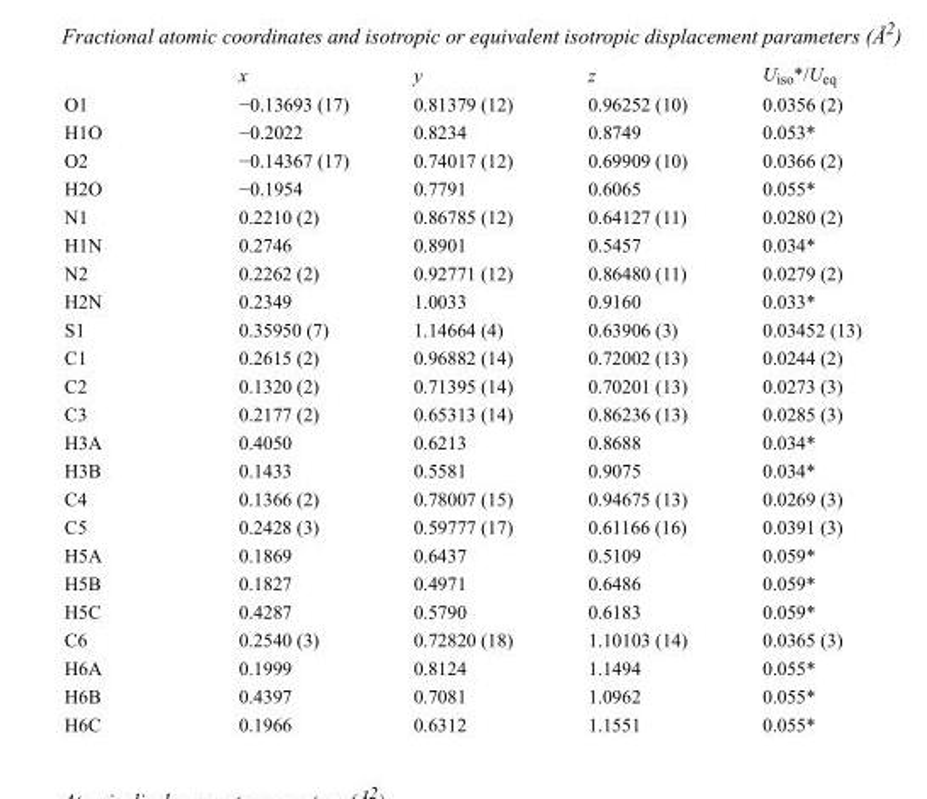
<table><thead><tr><td></td><td>x</td><td>y</td><td>z</td><td>U<sub>iso</sub>*/U<sub>eq</sub></td></tr></thead><tbody><tr><td>O1</td><td>−0.13693 (17)</td><td>0.81379 (12)</td><td>0.96252 (10)</td><td>0.0356 (2)</td></tr><tr><td>H1O</td><td>−0.2022</td><td>0.8234</td><td>0.8749</td><td>0.053*</td></tr><tr><td>O2</td><td>−0.14367 (17)</td><td>0.74017 (12)</td><td>0.69909 (10)</td><td>0.0366 (2)</td></tr><tr><td>H2O</td><td>−0.1954</td><td>0.7791</td><td>0.6065</td><td>0.055*</td></tr><tr><td>N1</td><td>0.2210 (2)</td><td>0.86785 (12)</td><td>0.64127 (11)</td><td>0.0280 (2)</td></tr><tr><td>H1N</td><td>0.2746</td><td>0.8901</td><td>0.5457</td><td>0.034*</td></tr><tr><td>N2</td><td>0.2262 (2)</td><td>0.92771 (12)</td><td>0.86480 (11)</td><td>0.0279 (2)</td></tr><tr><td>H2N</td><td>0.2349</td><td>1.0033</td><td>0.9160</td><td>0.033*</td></tr><tr><td>S1</td><td>0.35950 (7)</td><td>1.14664 (4)</td><td>0.63906 (3)</td><td>0.03452 (13)</td></tr><tr><td>C1</td><td>0.2615 (2)</td><td>0.96882 (14)</td><td>0.72002 (13)</td><td>0.0244 (2)</td></tr><tr><td>C2</td><td>0.1320 (2)</td><td>0.71395 (14)</td><td>0.70201 (13)</td><td>0.0273 (3)</td></tr><tr><td>C3</td><td>0.2177 (2)</td><td>0.65313 (14)</td><td>0.86236 (13)</td><td>0.0285 (3)</td></tr><tr><td>H3A</td><td>0.4050</td><td>0.6213</td><td>0.8688</td><td>0.034*</td></tr><tr><td>H3B</td><td>0.1433</td><td>0.5581</td><td>0.9075</td><td>0.034*</td></tr><tr><td>C4</td><td>0.1366 (2)</td><td>0.78007 (15)</td><td>0.94675 (13)</td><td>0.0269 (3)</td></tr><tr><td>C5</td><td>0.2428 (3)</td><td>0.59777 (17)</td><td>0.61166 (16)</td><td>0.0391 (3)</td></tr><tr><td>H5A</td><td>0.1869</td><td>0.6437</td><td>0.5109</td><td>0.059*</td></tr><tr><td>H5B</td><td>0.1827</td><td>0.4971</td><td>0.6486</td><td>0.059*</td></tr><tr><td>H5C</td><td>0.4287</td><td>0.5790</td><td>0.6183</td><td>0.059*</td></tr><tr><td>C6</td><td>0.2540 (3)</td><td>0.72820 (18)</td><td>1.10103 (14)</td><td>0.0365 (3)</td></tr><tr><td>H6A</td><td>0.1999</td><td>0.8124</td><td>1.1494</td><td>0.055*</td></tr><tr><td>H6B</td><td>0.4397</td><td>0.7081</td><td>1.0962</td><td>0.055*</td></tr><tr><td>H6C</td><td>0.1966</td><td>0.6312</td><td>1.1551</td><td>0.055*</td></tr></tbody></table>